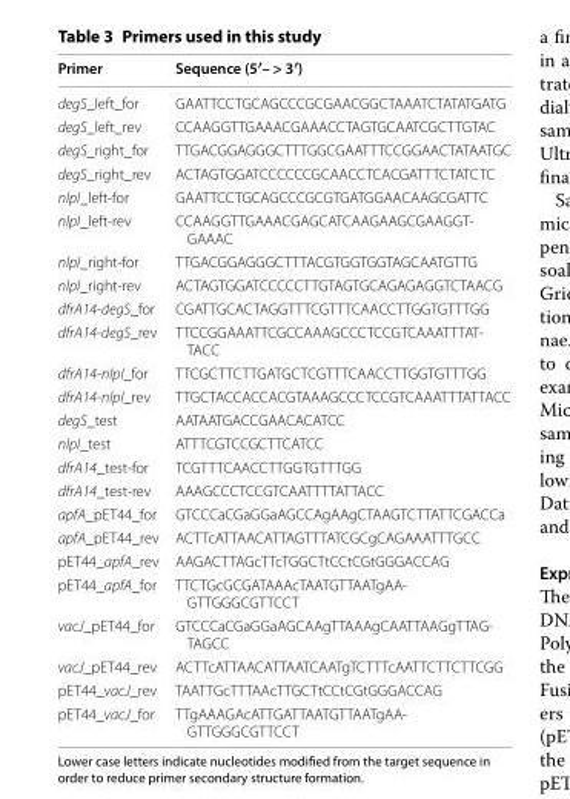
<table><thead><tr><td>Primer</td><td>Sequence (5′– &gt; 3′)</td></tr></thead><tbody><tr><td>degS_left_for</td><td>GAATTCCTGCAGCCCGCGAACGGCTAAATCTATATGATG</td></tr><tr><td>degS_left_rev</td><td>CCAAGGTTGAAACGAAACCTAGTGCAATCGCTTGTAC</td></tr><tr><td>degS_right_for</td><td>TTGACGGAGGGCTTTGGCGAATTTCCGGAACTATAATGC</td></tr><tr><td>degS_right_rev</td><td>ACTAGTGGATCCCCCCGCAACCTCACGATTTCTATCTC</td></tr><tr><td>nlpI_left-for</td><td>GAATTCCTGCAGCCCGCGTGATGGAACAAGCGATTC</td></tr><tr><td>nlpI_left-rev</td><td>CCAAGGTTGAAACGAGCATCAAGAAGCGAAGGT- GAAAC</td></tr><tr><td>nlpI_right-for</td><td>TTGACGGAGGGCTTTACGTGGTGGTAGCAATGTTG</td></tr><tr><td>nlpI_right-rev</td><td>ACTAGTGGATCCCCCTTGTAGTGCAGAGAGGTCTAACG</td></tr><tr><td>dfrA14-degS_for</td><td>CGATTGCACTAGGTTTCGTTTCAACCTTGGTGTTTGG</td></tr><tr><td>dfrA14-degS_rev</td><td>TTCCGGAAATTCGCCAAAGCCCTCCGTCAAATTTAT- TACC</td></tr><tr><td>dfrA14-nlpI_for</td><td>TTCGCTTCTTGATGCTCGTTTCAACCTTGGTGTTTGG</td></tr><tr><td>dfrA14-nlpI_rev</td><td>TTGCTACCACCACGTAAAGCCCTCCGTCAAATTTATTACC</td></tr><tr><td>degS_test</td><td>AATAATGACCGAACACATCC</td></tr><tr><td>nlpI_test</td><td>ATTTCGTCCGCTTCATCC</td></tr><tr><td>dfrA14_test-for</td><td>TCGTTTCAACCTTGGTGTTTGG</td></tr><tr><td>dfrA14_test-rev</td><td>AAAGCCCTCCGTCAATTTTATTACC</td></tr><tr><td>apfA_pET44_for</td><td>GTCCCaCGaGGaAGCCAgAAgCTAAGTCTTATTCGACCa</td></tr><tr><td>apfA_pET44_rev</td><td>ACTTcATTAACATTAGTTTATCGCgCAGAAATTTGCC</td></tr><tr><td>pET44_apfA_rev</td><td>AAGACTTAGcTTcTGGCTtCCtCGtGGGACCAG</td></tr><tr><td>pET44_apfA_for</td><td>TTCTGcGCGATAAAcTAATGTTAATgAA- GTTGGGCGTTCCT</td></tr><tr><td>vacJ_pET44_for</td><td>GTCCCaCGaGGaAGCAAgTTAAAgCAATTAAGgTTAG- TAGCC</td></tr><tr><td>vacJ_pET44_rev</td><td>ACTTcATTAACATTAATCAATgTCTTTcAATTCTTCTTCGG</td></tr><tr><td>pET44_vacJ_rev</td><td>TAATTGcTTTAAcTTGCTtCCtCGtGGGACCAG</td></tr><tr><td>pET44_vacJ_for</td><td>TTgAAAGAcATTGATTAATGTTAATgAA- GTTGGGCGTTCCT</td></tr></tbody></table>